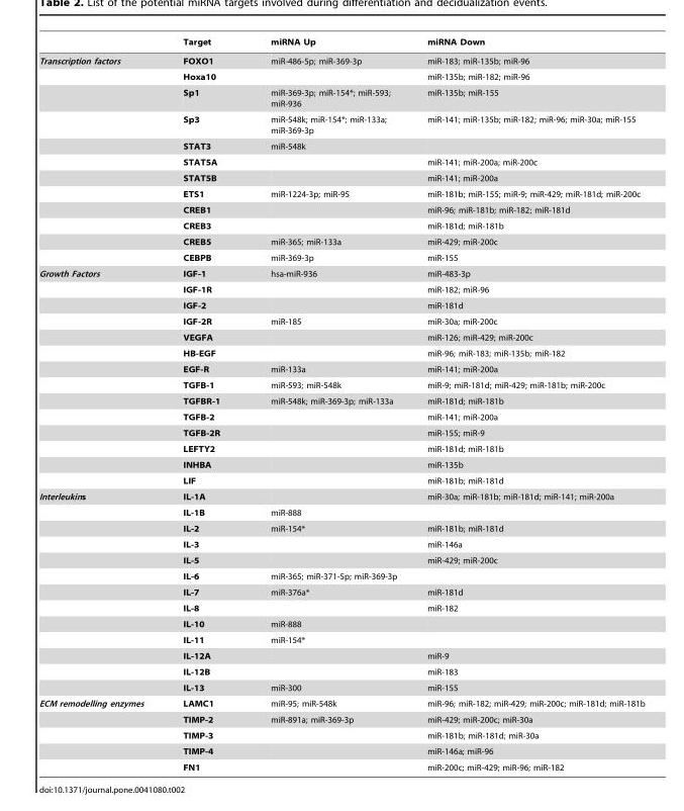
<table><thead><tr><td></td><td>Target</td><td>miRNA Up</td><td>miRNA Down</td></tr></thead><tbody><tr><td rowspan="12">Transcription factors</td><td>FOXO1</td><td>miR-486-5p; miR-369-3p</td><td>miR-183; miR-135b; miR-96</td></tr><tr><td>Hoxa10</td><td></td><td>miR-135b; miR-182; miR-96</td></tr><tr><td>Sp1</td><td>miR-369-3p; miR-154*; miR-593; miR-936</td><td>miR-135b; miR-155</td></tr><tr><td>Sp3</td><td>miR-548k; miR-154*; miR-133a; miR-369-3p</td><td>miR-141; miR-135b; miR-182; miR-96; miR-30a; miR-155</td></tr><tr><td>STAT3</td><td>miR-548k</td><td></td></tr><tr><td>STAT5A</td><td></td><td>miR-141; miR-200a; miR-200c</td></tr><tr><td>STAT5B</td><td></td><td>miR-141; miR-200a</td></tr><tr><td>ETS1</td><td>miR-1224-3p; miR-95</td><td>miR-181b; miR-155; miR-9; miR-429; miR-181d; miR-200c</td></tr><tr><td>CREB1</td><td></td><td>miR-96; miR-181b; miR-182; miR-181d</td></tr><tr><td>CREB3</td><td></td><td>miR-181d; miR-181b</td></tr><tr><td>CREB5</td><td>miR-365; miR-133a</td><td>miR-429; miR-200c</td></tr><tr><td>CEBPB</td><td>miR-369-3p</td><td>miR-155</td></tr><tr><td rowspan="14">Growth Factors</td><td>IGF-1</td><td>hsa-miR-936</td><td>miR-483-3p</td></tr><tr><td>IGF-1R</td><td></td><td>miR-182; miR-96</td></tr><tr><td>IGF-2</td><td></td><td>miR-181d</td></tr><tr><td>IGF-2R</td><td>miR-185</td><td>miR-30a; miR-200c</td></tr><tr><td>VEGFA</td><td></td><td>miR-126; miR-429; miR-200c</td></tr><tr><td>HB-EGF</td><td></td><td>miR-96; miR-183; miR-135b; miR-182</td></tr><tr><td>EGF-R</td><td>miR-133a</td><td>miR-141; miR-200a</td></tr><tr><td>TGFB-1</td><td>miR-593; miR-548k</td><td>miR-9; miR-181d; miR-429; miR-181b; miR-200c</td></tr><tr><td>TGFBR-1</td><td>miR-548k; miR-369-3p; miR-133a</td><td>miR-181d; miR-181b</td></tr><tr><td>TGFB-2</td><td></td><td>miR-141; miR-200a</td></tr><tr><td>TGFB-2R</td><td></td><td>miR-155; miR-9</td></tr><tr><td>LEFTY2</td><td></td><td>miR-181d; miR-181b</td></tr><tr><td>INHBA</td><td></td><td>miR-135b</td></tr><tr><td>LIF</td><td></td><td>miR-181b; miR-181d</td></tr><tr><td rowspan="13">Interleukins</td><td>IL-1A</td><td></td><td>miR-30a; miR-181b; miR-181d; miR-141; miR-200a</td></tr><tr><td>IL-1B</td><td>miR-888</td><td></td></tr><tr><td>IL-2</td><td>miR-154*</td><td>miR-181b; miR-181d</td></tr><tr><td>IL-3</td><td></td><td>miR-146a</td></tr><tr><td>IL-5</td><td></td><td>miR-429; miR-200c</td></tr><tr><td>IL-6</td><td>miR-365; miR-371-5p; miR-369-3p</td><td></td></tr><tr><td>IL-7</td><td>miR-376a*</td><td>miR-181d</td></tr><tr><td>IL-8</td><td></td><td>miR-182</td></tr><tr><td>IL-10</td><td>miR-888</td><td></td></tr><tr><td>IL-11</td><td>miR-154*</td><td></td></tr><tr><td>IL-12A</td><td></td><td>miR-9</td></tr><tr><td>IL-12B</td><td></td><td>miR-183</td></tr><tr><td>IL-13</td><td>miR-300</td><td>miR-155</td></tr><tr><td rowspan="5">ECM remodelling enzymes</td><td>LAMC1</td><td>miR-95; miR-548k</td><td>miR-96; miR-182; miR-429; miR-200c; miR-181d; miR-181b</td></tr><tr><td>TIMP-2</td><td>miR-891a; miR-369-3p</td><td>miR-429; miR-200c; miR-30a</td></tr><tr><td>TIMP-3</td><td></td><td>miR-181b; miR-181d; miR-30a</td></tr><tr><td>TIMP-4</td><td></td><td>miR-146a; miR-96</td></tr><tr><td>FN1</td><td></td><td>miR-200c; miR-429; miR-96; miR-182</td></tr></tbody></table>